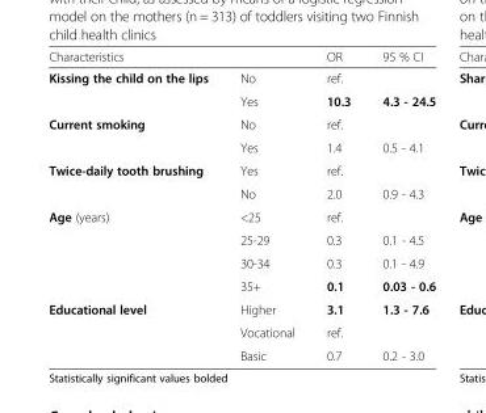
<table><thead><tr><td>Characteristics</td><td></td><td>OR</td><td>95 % CI</td></tr></thead><tbody><tr><td rowspan="2">Kissing the child on the lips</td><td>No</td><td>ref.</td><td></td></tr><tr><td>Yes</td><td>10.3</td><td>4.3 - 24.5</td></tr><tr><td rowspan="2">Current smoking</td><td>No</td><td>ref.</td><td></td></tr><tr><td>Yes</td><td>1.4</td><td>0.5 - 4.1</td></tr><tr><td rowspan="2">Twice-daily tooth brushing</td><td>Yes</td><td>ref.</td><td></td></tr><tr><td>No</td><td>2.0</td><td>0.9 - 4.3</td></tr><tr><td rowspan="4">Age (years)</td><td>&lt;25</td><td>ref.</td><td></td></tr><tr><td>25-29</td><td>0.3</td><td>0.1 - 4.5</td></tr><tr><td>30-34</td><td>0.3</td><td>0.1 - 4.9</td></tr><tr><td>35+</td><td>0.1</td><td>0.03 - 0.6</td></tr><tr><td rowspan="3">Educational level</td><td>Higher</td><td>3.1</td><td>1.3 - 7.6</td></tr><tr><td>Vocational</td><td>ref.</td><td></td></tr><tr><td>Basic</td><td>0.7</td><td>0.2 - 3.0</td></tr></tbody></table>